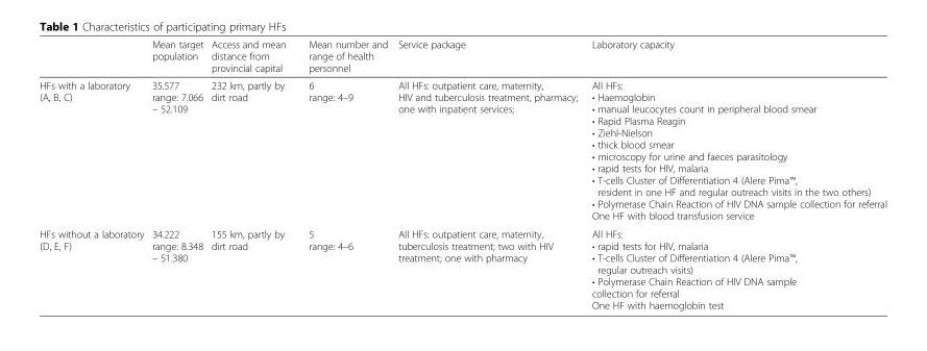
<table><thead><tr><td></td><td>Mean target population</td><td>Access and mean distance from provincial capital</td><td>Mean number and range of health personnel</td><td>Service package</td><td>Laboratory capacity</td></tr></thead><tbody><tr><td>HFs with a laboratory (A, B, C)</td><td>35.577 range: 7.066 – 52.109</td><td>232 km, partly by dirt road</td><td>6 range: 4–9</td><td>All HFs: outpatient care, maternity, HIV and tuberculosis treatment, pharmacy; one with inpatient services;</td><td>All HFs: • Haemoglobin • manual leucocytes count in peripheral blood smear • Rapid Plasma Reagin • Ziehl-Nielson • thick blood smear • microscopy for urine and faeces parasitology • rapid tests for HIV, malaria • T-cells Cluster of Differentiation 4 (Alere Pima™, resident in one HF and regular outreach visits in the two others) • Polymerase Chain Reaction of HIV DNA sample collection for referral One HF with blood transfusion service</td></tr><tr><td>HFs without a laboratory (D, E, F)</td><td>34.222 range: 8.348 – 51.380</td><td>155 km, partly by dirt road</td><td>5 range: 4–6</td><td>All HFs: outpatient care, maternity, tuberculosis treatment; two with HIV treatment; one with pharmacy</td><td>All HFs: • rapid tests for HIV, malaria • T-cells Cluster of Differentiation 4 (Alere Pima™, regular outreach visits) • Polymerase Chain Reaction of HIV DNA sample collection for referral One HF with haemoglobin test</td></tr></tbody></table>